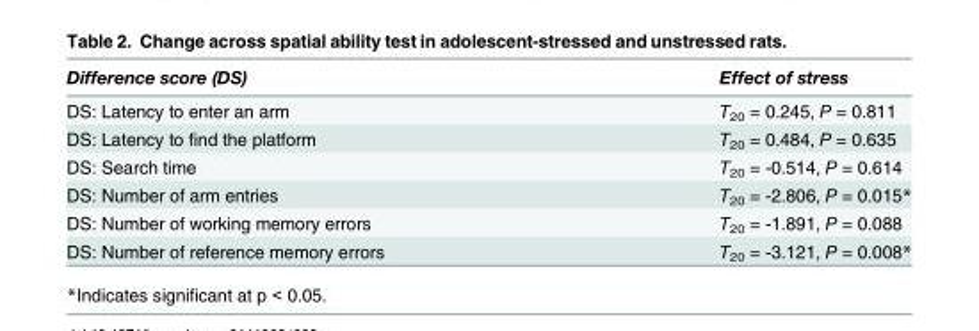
<table><thead><tr><td>Difference score (DS)</td><td>Effect of stress</td></tr></thead><tbody><tr><td>DS: Latency to enter an arm</td><td>T<sub>20</sub> = 0.245, P = 0.811</td></tr><tr><td>DS: Latency to find the platform</td><td>T<sub>20</sub> = 0.484, P = 0.635</td></tr><tr><td>DS: Search time</td><td>T<sub>20</sub> = -0.514, P = 0.614</td></tr><tr><td>DS: Number of arm entries</td><td>T<sub>20</sub> = -2.806, P = 0.015*</td></tr><tr><td>DS: Number of working memory errors</td><td>T<sub>20</sub> = -1.891, P = 0.088</td></tr><tr><td>DS: Number of reference memory errors</td><td>T<sub>20</sub> = -3.121, P = 0.008*</td></tr></tbody></table>